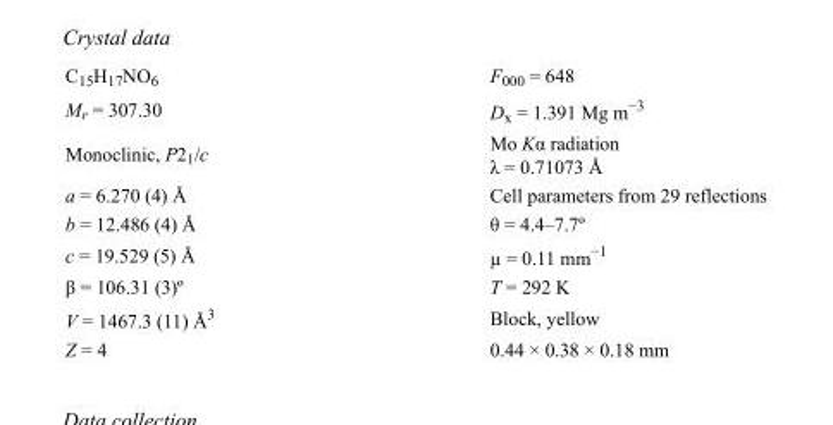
<table><tbody><tr><td>C<sub>15</sub>H<sub>17</sub>NO<sub>6</sub></td><td>F000 = 648</td></tr><tr><td>M<sub>r</sub> = 307.30</td><td>D<sub>x</sub> = 1.391 Mg m<sup>−3</sup></td></tr><tr><td>Monoclinic, P2<sub>1</sub>/c</td><td>Mo Kα radiation λ = 0.71073 Å</td></tr><tr><td>a = 6.270 (4) Å</td><td>Cell parameters from 29 reflections</td></tr><tr><td>b = 12.486 (4) Å</td><td>θ = 4.4–7.7º</td></tr><tr><td>c = 19.529 (5) Å</td><td>µ = 0.11 mm<sup>−1</sup></td></tr><tr><td>β = 106.31 (3)º</td><td>T = 292 K</td></tr><tr><td>V = 1467.3 (11) Å<sup>3</sup></td><td>Block, yellow</td></tr><tr><td>Z = 4</td><td>0.44 × 0.38 × 0.18 mm</td></tr></tbody></table>